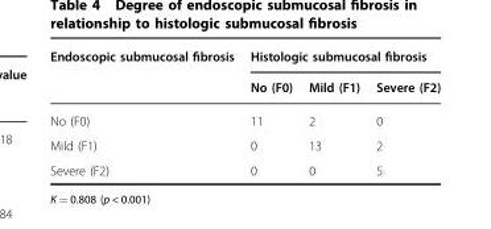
<table><thead><tr><td rowspan="2">Endoscopic submucosal fibrosis</td><td colspan="3">Histologic submucosal fibrosis</td></tr><tr><td>No (F0)</td><td>Mild (F1)</td><td>Severe (F2)</td></tr></thead><tbody><tr><td>No (F0)</td><td>11</td><td>2</td><td>0</td></tr><tr><td>Mild (F1)</td><td>0</td><td>13</td><td>2</td></tr><tr><td>Severe (F2)</td><td>0</td><td>0</td><td>5</td></tr></tbody></table>